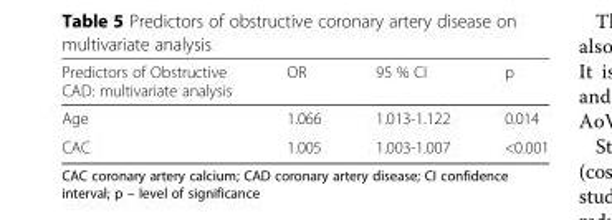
<table><thead><tr><td>Predictors of Obstructive CAD: multivariate analysis</td><td>OR</td><td>95 % CI</td><td>p</td></tr></thead><tbody><tr><td>Age</td><td>1.066</td><td>1.013-1.122</td><td>0.014</td></tr><tr><td>CAC</td><td>1.005</td><td>1.003-1.007</td><td>&lt;0.001</td></tr></tbody></table>